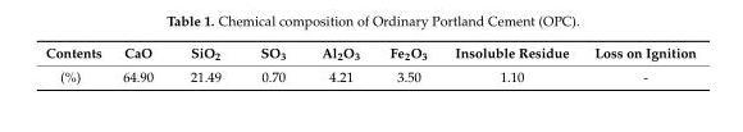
<table><thead><tr><td>Contents</td><td>CaO</td><td>SiO<sub>2</sub></td><td>SO<sub>3</sub></td><td>Al<sub>2</sub>O<sub>3</sub></td><td>Fe<sub>2</sub>O<sub>3</sub></td><td>Insoluble Residue</td><td>Loss on Ignition</td></tr></thead><tbody><tr><td>(%)</td><td>64.90</td><td>21.49</td><td>0.70</td><td>4.21</td><td>3.50</td><td>1.10</td><td>-</td></tr></tbody></table>